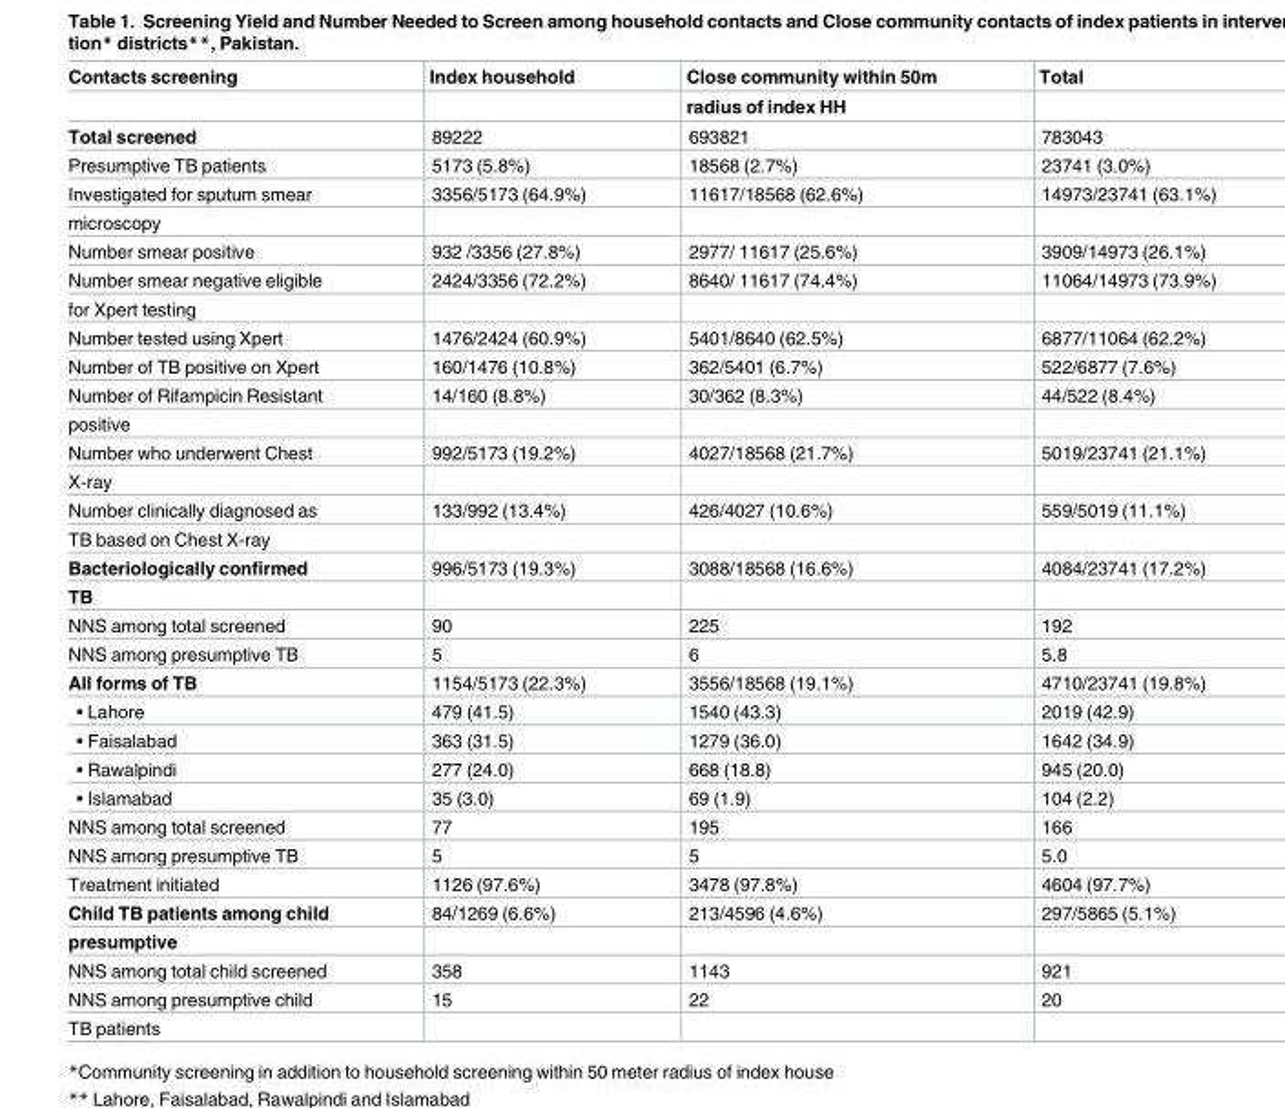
<table><thead><tr><td rowspan="2">Contacts screening</td><td rowspan="2">Index household</td><td rowspan="2">Close community within 50m radius of index HH</td><td rowspan="2">Total</td></tr><tr></tr></thead><tbody><tr><td>Total screened</td><td>89222</td><td>693821</td><td>783043</td></tr><tr><td>Presumptive TB patients</td><td>5173 (5.8%)</td><td>18568 (2.7%)</td><td>23741 (3.0%)</td></tr><tr><td>Investigated for sputum smear</td><td>3356/5173 (64.9%)</td><td>11617/18568 (62.6%)</td><td>14973/23741 (63.1%)</td></tr><tr><td colspan="4">microscopy</td></tr><tr><td>Number smear positive</td><td>932 /3356 (27.8%)</td><td>2977/ 11617 (25.6%)</td><td>3909/14973 (26.1%)</td></tr><tr><td>Number smear negative eligible</td><td>2424/3356 (72.2%)</td><td>8640/ 11617 (74.4%)</td><td>11064/14973 (73.9%)</td></tr><tr><td colspan="4">for Xpert testing</td></tr><tr><td>Number tested using Xpert</td><td>1476/2424 (60.9%)</td><td>5401/8640 (62.5%)</td><td>6877/11064 (62.2%)</td></tr><tr><td>Number of TB positive on Xpert</td><td>160/1476 (10.8%)</td><td>362/5401 (6.7%)</td><td>522/6877 (7.6%)</td></tr><tr><td>Number of Rifampicin Resistant</td><td>14/160 (8.8%)</td><td>30/362 (8.3%)</td><td>44/522 (8.4%)</td></tr><tr><td colspan="4">positive</td></tr><tr><td>Number who underwent Chest</td><td>992/5173 (19.2%)</td><td>4027/18568 (21.7%)</td><td>5019/23741 (21.1%)</td></tr><tr><td colspan="4">X-ray</td></tr><tr><td>Number clinically diagnosed as</td><td>133/992 (13.4%)</td><td>426/4027 (10.6%)</td><td>559/5019 (11.1%)</td></tr><tr><td colspan="4">TB based on Chest X-ray</td></tr><tr><td>Bacteriologically confirmed</td><td>996/5173 (19.3%)</td><td>3088/18568 (16.6%)</td><td>4084/23741 (17.2%)</td></tr><tr><td colspan="4">TB</td></tr><tr><td>NNS among total screened</td><td>90</td><td>225</td><td>192</td></tr><tr><td>NNS among presumptive TB</td><td>5</td><td>6</td><td>5.8</td></tr><tr><td>All forms of TB</td><td>1154/5173 (22.3%)</td><td>3556/18568 (19.1%)</td><td>4710/23741 (19.8%)</td></tr><tr><td>• Lahore</td><td>479 (41.5)</td><td>1540 (43.3)</td><td>2019 (42.9)</td></tr><tr><td>• Faisalabad</td><td>363 (31.5)</td><td>1279 (36.0)</td><td>1642 (34.9)</td></tr><tr><td>• Rawalpindi</td><td>277 (24.0)</td><td>668 (18.8)</td><td>945 (20.0)</td></tr><tr><td>• Islamabad</td><td>35 (3.0)</td><td>69 (1.9)</td><td>104 (2.2)</td></tr><tr><td>NNS among total screened</td><td>77</td><td>195</td><td>166</td></tr><tr><td>NNS among presumptive TB</td><td>5</td><td>5</td><td>5.0</td></tr><tr><td>Treatment initiated</td><td>1126 (97.6%)</td><td>3478 (97.8%)</td><td>4604 (97.7%)</td></tr><tr><td>Child TB patients among child</td><td>84/1269 (6.6%)</td><td>213/4596 (4.6%)</td><td>297/5865 (5.1%)</td></tr><tr><td colspan="4">presumptive</td></tr><tr><td>NNS among total child screened</td><td>358</td><td>1143</td><td>921</td></tr><tr><td>NNS among presumptive child</td><td>15</td><td>22</td><td>20</td></tr><tr><td>TB patients</td><td></td><td></td><td></td></tr></tbody></table>